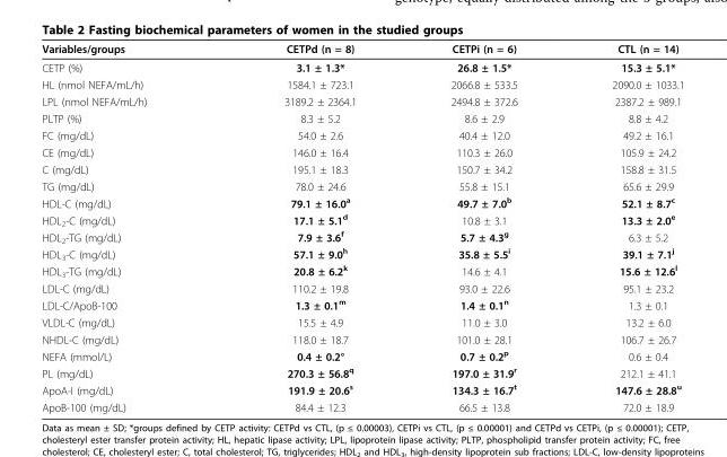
<table><thead><tr><td>Variables/groups</td><td>CETPd (n = 8)</td><td>CETPi (n = 6)</td><td>CTL (n = 14)</td></tr></thead><tbody><tr><td>CETP (%)</td><td>3.1 ± 1.3*</td><td>26.8 ± 1.5*</td><td>15.3 ± 5.1*</td></tr><tr><td>HL (nmol NEFA/mL/h)</td><td>1584.1 ± 723.1</td><td>2066.8 ± 533.5</td><td>2090.0 ± 1033.1</td></tr><tr><td>LPL (nmol NEFA/mL/h)</td><td>3189.2 ± 2364.1</td><td>2494.8 ± 372.6</td><td>2387.2 ± 989.1</td></tr><tr><td>PLTP (%)</td><td>8.3 ± 5.2</td><td>8.6 ± 2.9</td><td>8.8 ± 4.2</td></tr><tr><td>FC (mg/dL)</td><td>54.0 ± 2.6</td><td>40.4 ± 12.0</td><td>49.2 ± 16.1</td></tr><tr><td>CE (mg/dL)</td><td>146.0 ± 16.4</td><td>110.3 ± 26.0</td><td>105.9 ± 24.2</td></tr><tr><td>C (mg/dL)</td><td>195.1 ± 18.3</td><td>150.7 ± 34.2</td><td>158.8 ± 31.5</td></tr><tr><td>TG (mg/dL)</td><td>78.0 ± 24.6</td><td>55.8 ± 15.1</td><td>65.6 ± 29.9</td></tr><tr><td>HDL-C (mg/dL)</td><td>79.1 ± 16.0<sup>a</sup></td><td>49.7 ± 7.0<sup>b</sup></td><td>52.1 ± 8.7<sup>c</sup></td></tr><tr><td>HDL<sub>2</sub>-C (mg/dL)</td><td>17.1 ± 5.1<sup>d</sup></td><td>10.8 ± 3.1</td><td>13.3 ± 2.0<sup>e</sup></td></tr><tr><td>HDL<sub>2</sub>-TG (mg/dL)</td><td>7.9 ± 3.6<sup>f</sup></td><td>5.7 ± 4.3<sup>g</sup></td><td>6.3 ± 5.2</td></tr><tr><td>HDL<sub>3</sub>-C (mg/dL)</td><td>57.1 ± 9.0<sup>h</sup></td><td>35.8 ± 5.5<sup>i</sup></td><td>39.1 ± 7.1<sup>j</sup></td></tr><tr><td>HDL<sub>3</sub>-TG (mg/dL)</td><td>20.8 ± 6.2<sup>k</sup></td><td>14.6 ± 4.1</td><td>15.6 ± 12.6<sup>l</sup></td></tr><tr><td>LDL-C (mg/dL)</td><td>110.2 ± 19.8</td><td>93.0 ± 22.6</td><td>95.1 ± 23.2</td></tr><tr><td>LDL-C/ApoB-100</td><td>1.3 ± 0.1<sup>m</sup></td><td>1.4 ± 0.1<sup>n</sup></td><td>1.3 ± 0.1</td></tr><tr><td>VLDL-C (mg/dL)</td><td>15.5 ± 4.9</td><td>11.0 ± 3.0</td><td>13.2 ± 6.0</td></tr><tr><td>NHDL-C (mg/dL)</td><td>118.0 ± 18.7</td><td>101.0 ± 28.1</td><td>106.7 ± 26.7</td></tr><tr><td>NEFA (mmol/L)</td><td>0.4 ± 0.2°</td><td>0.7 ± 0.2<sup>p</sup></td><td>0.6 ± 0.4</td></tr><tr><td>PL (mg/dL)</td><td>270.3 ± 56.8<sup>q</sup></td><td>197.0 ± 31.9<sup>r</sup></td><td>212.1 ± 41.1</td></tr><tr><td>ApoA-I (mg/dL)</td><td>191.9 ± 20.6<sup>s</sup></td><td>134.3 ± 16.7<sup>t</sup></td><td>147.6 ± 28.8<sup>u</sup></td></tr><tr><td>ApoB-100 (mg/dL)</td><td>84.4 ± 12.3</td><td>66.5 ± 13.8</td><td>72.0 ± 18.9</td></tr></tbody></table>